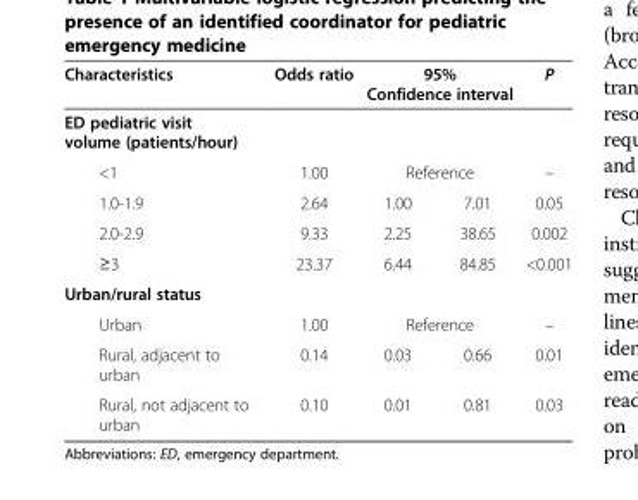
<table><thead><tr><td rowspan="2">Characteristics ED pediatric visit volume (patients/hour)</td><td rowspan="2">Odds ratio</td><td colspan="2">95% Confidence interval</td><td rowspan="2">P</td></tr><tr><td></td><td></td></tr></thead><tbody><tr><td>&lt;1</td><td>1.00</td><td colspan="2">Reference</td><td>–</td></tr><tr><td>1.0-1.9</td><td>2.64</td><td>1.00</td><td>7.01</td><td>0.05</td></tr><tr><td>2.0-2.9</td><td>9.33</td><td>2.25</td><td>38.65</td><td>0.002</td></tr><tr><td>≥3</td><td>23.37</td><td>6.44</td><td>84.85</td><td>&lt;0.001</td></tr><tr><td colspan="5">Urban/rural status</td></tr><tr><td>Urban</td><td>1.00</td><td colspan="2">Reference</td><td>–</td></tr><tr><td>Rural, adjacent to urban</td><td>0.14</td><td>0.03</td><td>0.66</td><td>0.01</td></tr><tr><td>Rural, not adjacent to urban</td><td>0.10</td><td>0.01</td><td>0.81</td><td>0.03</td></tr></tbody></table>